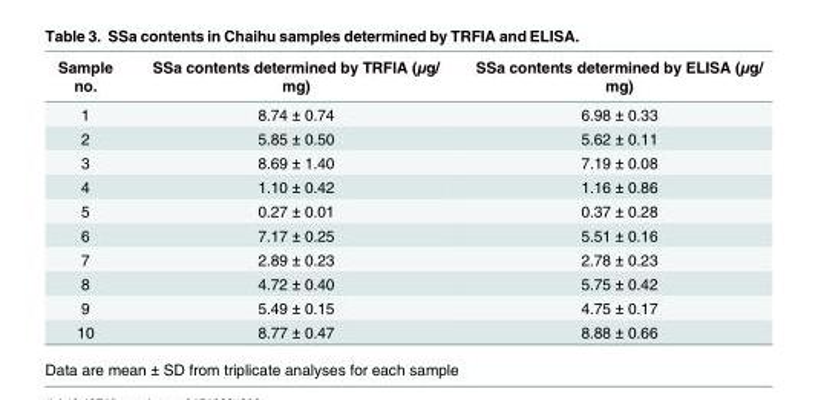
<table><thead><tr><td>Sample no.</td><td>SSa contents determined by TRFIA (μg/ mg)</td><td>SSa contents determined by ELISA (μg/ mg)</td></tr></thead><tbody><tr><td>1</td><td>8.74 ± 0.74</td><td>6.98 ± 0.33</td></tr><tr><td>2</td><td>5.85 ± 0.50</td><td>5.62 ± 0.11</td></tr><tr><td>3</td><td>8.69 ± 1.40</td><td>7.19 ± 0.08</td></tr><tr><td>4</td><td>1.10 ± 0.42</td><td>1.16 ± 0.86</td></tr><tr><td>5</td><td>0.27 ± 0.01</td><td>0.37 ± 0.28</td></tr><tr><td>6</td><td>7.17 ± 0.25</td><td>5.51 ± 0.16</td></tr><tr><td>7</td><td>2.89 ± 0.23</td><td>2.78 ± 0.23</td></tr><tr><td>8</td><td>4.72 ± 0.40</td><td>5.75 ± 0.42</td></tr><tr><td>9</td><td>5.49 ± 0.15</td><td>4.75 ± 0.17</td></tr><tr><td>10</td><td>8.77 ± 0.47</td><td>8.88 ± 0.66</td></tr></tbody></table>